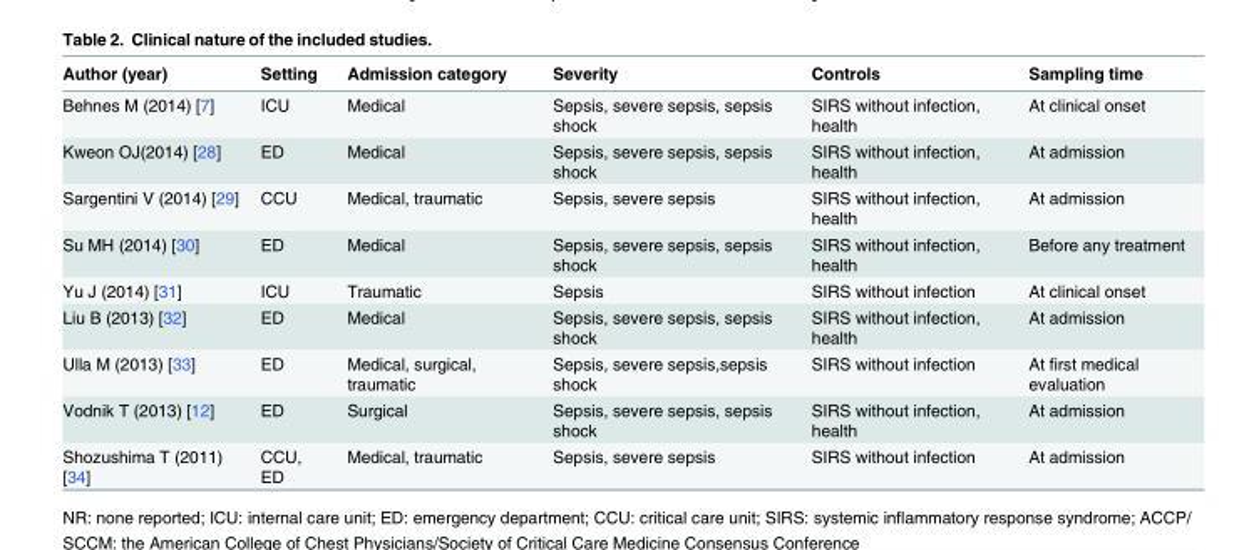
<table><thead><tr><td>Author (year)</td><td>Setting</td><td>Admission category</td><td>Severity</td><td>Controls</td><td>Sampling time</td></tr></thead><tbody><tr><td>Behnes M (2014) [7]</td><td>ICU</td><td>Medical</td><td>Sepsis, severe sepsis, sepsis shock</td><td>SIRS without infection, health</td><td>At clinical onset</td></tr><tr><td>Kweon OJ(2014) [28]</td><td>ED</td><td>Medical</td><td>Sepsis, severe sepsis, sepsis shock</td><td>SIRS without infection, health</td><td>At admission</td></tr><tr><td>Sargentini V (2014) [29]</td><td>CCU</td><td>Medical, traumatic</td><td>Sepsis, severe sepsis</td><td>SIRS without infection, health</td><td>At admission</td></tr><tr><td>Su MH (2014) [30]</td><td>ED</td><td>Medical</td><td>Sepsis, severe sepsis, sepsis shock</td><td>SIRS without infection, health</td><td>Before any treatment</td></tr><tr><td>Yu J (2014) [31]</td><td>ICU</td><td>Traumatic</td><td>Sepsis</td><td>SIRS without infection</td><td>At clinical onset</td></tr><tr><td>Liu B (2013) [32]</td><td>ED</td><td>Medical</td><td>Sepsis, severe sepsis, sepsis shock</td><td>SIRS without infection, health</td><td>At admission</td></tr><tr><td>Ulla M (2013) [33]</td><td>ED</td><td>Medical, surgical, traumatic</td><td>Sepsis, severe sepsis,sepsis shock</td><td>SIRS without infection</td><td>At first medical evaluation</td></tr><tr><td>Vodnik T (2013) [12]</td><td>ED</td><td>Surgical</td><td>Sepsis, severe sepsis, sepsis shock</td><td>SIRS without infection, health</td><td>At admission</td></tr><tr><td>Shozushima T (2011) [34]</td><td>CCU, ED</td><td>Medical, traumatic</td><td>Sepsis, severe sepsis</td><td>SIRS without infection</td><td>At admission</td></tr></tbody></table>